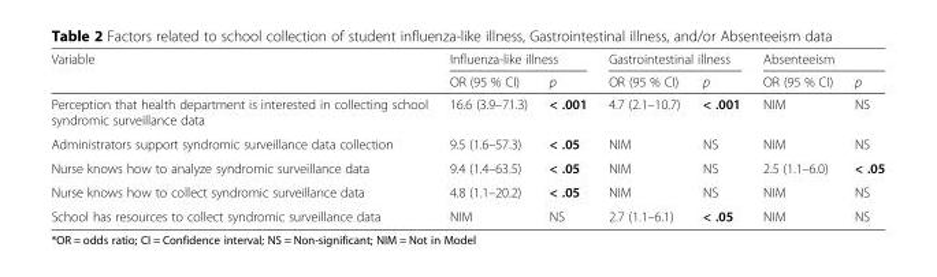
<table><thead><tr><td rowspan="2">Variable</td><td colspan="2">Influenza-like illness</td><td colspan="2">Gastrointestinal illness</td><td colspan="2">Absenteeism</td></tr><tr><td>OR (95 % CI)</td><td>p</td><td>OR (95 % CI)</td><td>p</td><td>OR (95 % CI)</td><td>p</td></tr></thead><tbody><tr><td>Perception that health department is interested in collecting school syndromic surveillance data</td><td>16.6 (3.9–71.3)</td><td>&lt; .001</td><td>4.7 (2.1–10.7)</td><td>&lt; .001</td><td>NIM</td><td>NS</td></tr><tr><td>Administrators support syndromic surveillance data collection</td><td>9.5 (1.6–57.3)</td><td>&lt; .05</td><td>NIM</td><td>NS</td><td>NIM</td><td>NS</td></tr><tr><td>Nurse knows how to analyze syndromic surveillance data</td><td>9.4 (1.4–63.5)</td><td>&lt; .05</td><td>NIM</td><td>NS</td><td>2.5 (1.1–6.0)</td><td>&lt; .05</td></tr><tr><td>Nurse knows how to collect syndromic surveillance data</td><td>4.8 (1.1–20.2)</td><td>&lt; .05</td><td>NIM</td><td>NS</td><td>NIM</td><td>NS</td></tr><tr><td>School has resources to collect syndromic surveillance data</td><td>NIM</td><td>NS</td><td>2.7 (1.1–6.1)</td><td>&lt; .05</td><td>NIM</td><td>NS</td></tr></tbody></table>